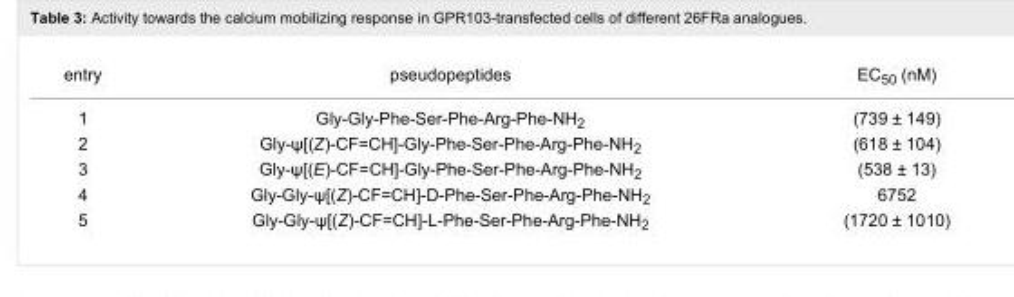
<table><tbody><tr><td>entry</td><td>pseudopeptides</td><td>EC<sub>50</sub> (nM)</td></tr><tr><td>1</td><td>Gly-Gly-Phe-Ser-Phe-Arg-Phe-NH<sub>2</sub></td><td>(739 ± 149)</td></tr><tr><td>2</td><td>Gly-ψ[(Z)-CF=CH]-Gly-Phe-Ser-Phe-Arg-Phe-NH<sub>2</sub></td><td>(618 ± 104)</td></tr><tr><td>3</td><td>Gly-ψ[(E)-CF=CH]-Gly-Phe-Ser-Phe-Arg-Phe-NH<sub>2</sub></td><td>(538 ± 13)</td></tr><tr><td>4</td><td>Gly-Gly-ψ[(Z)-CF=CH]-D-Phe-Ser-Phe-Arg-Phe-NH<sub>2</sub></td><td>6752</td></tr><tr><td>5</td><td>Gly-Gly-ψ[(Z)-CF=CH]-L-Phe-Ser-Phe-Arg-Phe-NH<sub>2</sub></td><td>(1720 ± 1010)</td></tr></tbody></table>